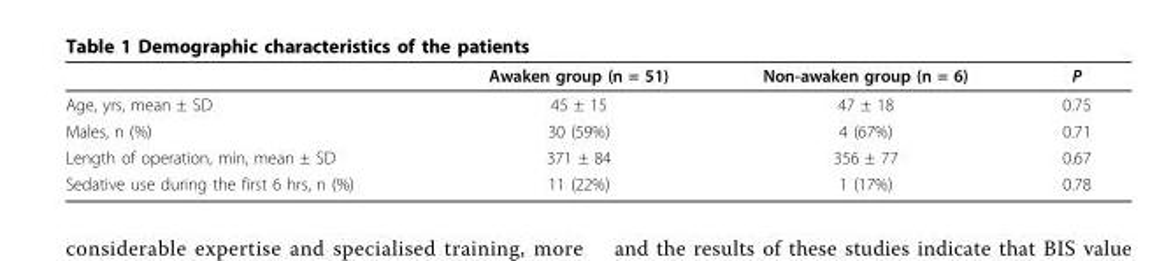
<table><thead><tr><td></td><td>Awaken group (n = 51)</td><td>Non-awaken group (n = 6)</td><td>P</td></tr></thead><tbody><tr><td>Age, yrs, mean ± SD</td><td>45 ± 15</td><td>47 ± 18</td><td>0.75</td></tr><tr><td>Males, n (%)</td><td>30 (59%)</td><td>4 (67%)</td><td>0.71</td></tr><tr><td>Length of operation, min, mean ± SD</td><td>371 ± 84</td><td>356 ± 77</td><td>0.67</td></tr><tr><td>Sedative use during the first 6 hrs, n (%)</td><td>11 (22%)</td><td>1 (17%)</td><td>0.78</td></tr></tbody></table>